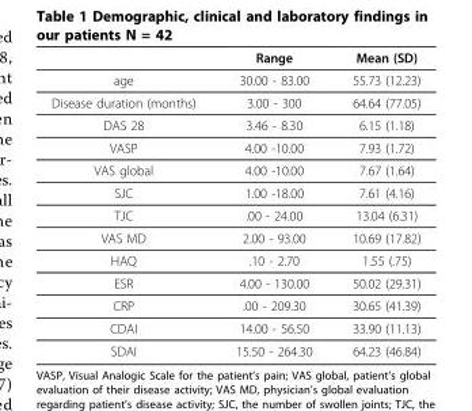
<table><thead><tr><td></td><td>Range</td><td>Mean (SD)</td></tr></thead><tbody><tr><td>age</td><td>30.00 - 83.00</td><td>55.73 (12.23)</td></tr><tr><td>Disease duration (months)</td><td>3.00 - 300</td><td>64.64 (77.05)</td></tr><tr><td>DAS 28</td><td>3.46 - 8.30</td><td>6.15 (1.18)</td></tr><tr><td>VASP</td><td>4.00 -10.00</td><td>7.93 (1.72)</td></tr><tr><td>VAS global</td><td>4.00 -10.00</td><td>7.67 (1.64)</td></tr><tr><td>SJC</td><td>1.00 -18.00</td><td>7.61 (4.16)</td></tr><tr><td>TJC</td><td>.00 - 24.00</td><td>13.04 (6.31)</td></tr><tr><td>VAS MD</td><td>2.00 - 93.00</td><td>10.69 (17.82)</td></tr><tr><td>HAQ</td><td>.10 - 2.70</td><td>1.55 (.75)</td></tr><tr><td>ESR</td><td>4.00 - 130.00</td><td>50.02 (29.31)</td></tr><tr><td>CRP</td><td>.00 - 209.30</td><td>30.65 (41.39)</td></tr><tr><td>CDAI</td><td>14.00 - 56.50</td><td>33.90 (11.13)</td></tr><tr><td>SDAI</td><td>15.50 - 264.30</td><td>64.23 (46.84)</td></tr></tbody></table>